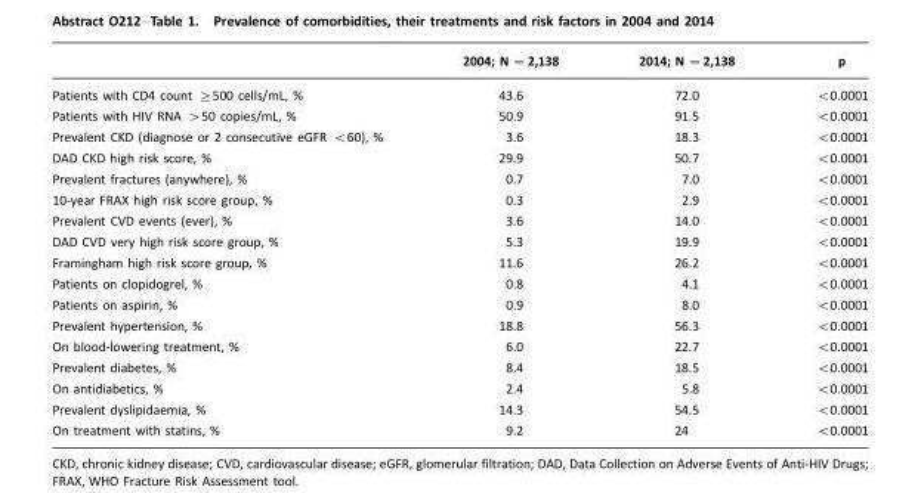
<table><thead><tr><td></td><td>2004; N =2,138</td><td>2014; N =2,138</td><td>p</td></tr></thead><tbody><tr><td>Patients with CD4 count ≥500 cells/mL, %</td><td>43.6</td><td>72.0</td><td>&lt;0.0001</td></tr><tr><td>Patients with HIV RNA &gt;50 copies/mL, %</td><td>50.9</td><td>91.5</td><td>&lt;0.0001</td></tr><tr><td>Prevalent CKD (diagnose or 2 consecutive eGFR &lt;60), %</td><td>3.6</td><td>18.3</td><td>&lt;0.0001</td></tr><tr><td>DAD CKD high risk score, %</td><td>29.9</td><td>50.7</td><td>&lt;0.0001</td></tr><tr><td>Prevalent fractures (anywhere), %</td><td>0.7</td><td>7.0</td><td>&lt;0.0001</td></tr><tr><td>10-year FRAX high risk score group, %</td><td>0.3</td><td>2.9</td><td>&lt;0.0001</td></tr><tr><td>Prevalent CVD events (ever), %</td><td>3.6</td><td>14.0</td><td>&lt;0.0001</td></tr><tr><td>DAD CVD very high risk score group, %</td><td>5.3</td><td>19.9</td><td>&lt;0.0001</td></tr><tr><td>Framingham high risk score group, %</td><td>11.6</td><td>26.2</td><td>&lt;0.0001</td></tr><tr><td>Patients on clopidogrel, %</td><td>0.8</td><td>4.1</td><td>&lt;0.0001</td></tr><tr><td>Patients on aspirin, %</td><td>0.9</td><td>8.0</td><td>&lt;0.0001</td></tr><tr><td>Prevalent hypertension, %</td><td>18.8</td><td>56.3</td><td>&lt;0.0001</td></tr><tr><td>On blood-lowering treatment, %</td><td>6.0</td><td>22.7</td><td>&lt;0.0001</td></tr><tr><td>Prevalent diabetes, %</td><td>8.4</td><td>18.5</td><td>&lt;0.0001</td></tr><tr><td>On antidiabetics, %</td><td>2.4</td><td>5.8</td><td>&lt;0.0001</td></tr><tr><td>Prevalent dyslipidaemia, %</td><td>14.3</td><td>54.5</td><td>&lt;0.0001</td></tr><tr><td>On treatment with statins, %</td><td>9.2</td><td>24</td><td>&lt;0.0001</td></tr></tbody></table>